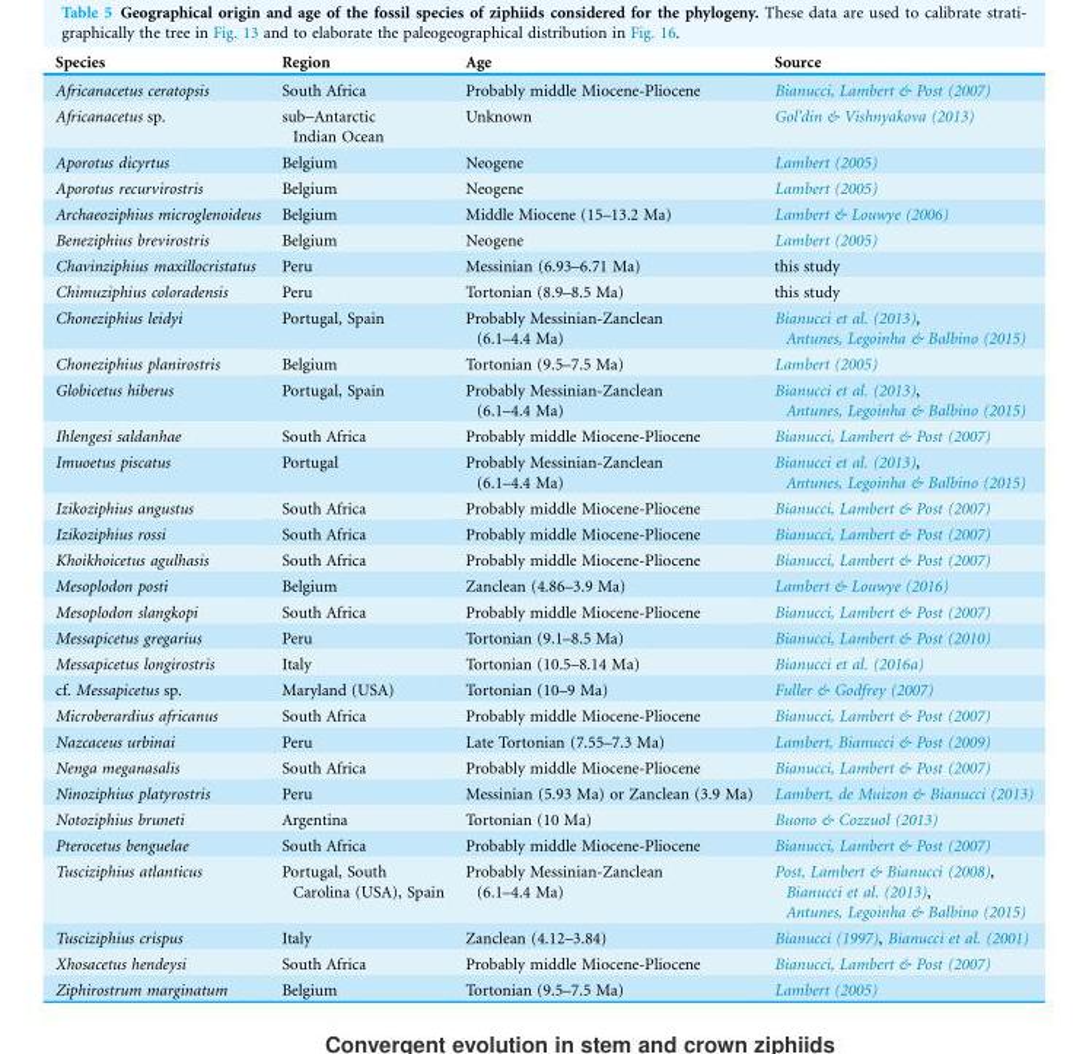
<table><thead><tr><td>Species</td><td>Region</td><td>Age</td><td>Source</td></tr></thead><tbody><tr><td>Africanacetus ceratopsis</td><td>South Africa</td><td>Probably middle Miocene-Pliocene</td><td>Bianucci, Lambert &amp; Post (2007)</td></tr><tr><td>Africanacetus sp.</td><td>sub-Antarctic Indian Ocean</td><td>Unknown</td><td>Gol’din &amp; Vishnyakova (2013)</td></tr><tr><td>Aporotus dicyrtus</td><td>Belgium</td><td>Neogene</td><td>Lambert (2005)</td></tr><tr><td>Aporotus recurvirostris</td><td>Belgium</td><td>Neogene</td><td>Lambert (2005)</td></tr><tr><td>Archaeoziphius microglenoideus</td><td>Belgium</td><td>Middle Miocene (15–13.2 Ma)</td><td>Lambert &amp; Louwye (2006)</td></tr><tr><td>Beneziphius brevirostris</td><td>Belgium</td><td>Neogene</td><td>Lambert (2005)</td></tr><tr><td>Chavinziphius maxillocristatus</td><td>Peru</td><td>Messinian (6.93–6.71 Ma)</td><td>this study</td></tr><tr><td>Chimuziphius coloradensis</td><td>Peru</td><td>Tortonian (8.9–8.5 Ma)</td><td>this study</td></tr><tr><td>Choneziphius leidyi</td><td>Portugal, Spain</td><td>Probably Messinian-Zanclean (6.1–4.4 Ma)</td><td>Bianucci et al. (2013), Antunes, Legoinha &amp; Balbino (2015)</td></tr><tr><td>Choneziphius planirostris</td><td>Belgium</td><td>Tortonian (9.5–7.5 Ma)</td><td>Lambert (2005)</td></tr><tr><td>Globicetus hiberus</td><td>Portugal, Spain</td><td>Probably Messinian-Zanclean (6.1–4.4 Ma)</td><td>Bianucci et al. (2013), Antunes, Legoinha &amp; Balbino (2015)</td></tr><tr><td>Ihlengesi saldanhae</td><td>South Africa</td><td>Probably middle Miocene-Pliocene</td><td>Bianucci, Lambert &amp; Post (2007)</td></tr><tr><td>Imuoetus piscatus</td><td>Portugal</td><td>Probably Messinian-Zanclean (6.1–4.4 Ma)</td><td>Bianucci et al. (2013), Antunes, Legoinha &amp; Balbino (2015)</td></tr><tr><td>Izikoziphius angustus</td><td>South Africa</td><td>Probably middle Miocene-Pliocene</td><td>Bianucci, Lambert &amp; Post (2007)</td></tr><tr><td>Izikoziphius rossi</td><td>South Africa</td><td>Probably middle Miocene-Pliocene</td><td>Bianucci, Lambert &amp; Post (2007)</td></tr><tr><td>Khoikhoicetus agulhasis</td><td>South Africa</td><td>Probably middle Miocene-Pliocene</td><td>Bianucci, Lambert &amp; Post (2007)</td></tr><tr><td>Mesoplodon posti</td><td>Belgium</td><td>Zanclean (4.86–3.9 Ma)</td><td>Lambert &amp; Louwye (2016)</td></tr><tr><td>Mesoplodon slangkopi</td><td>South Africa</td><td>Probably middle Miocene-Pliocene</td><td>Bianucci, Lambert &amp; Post (2007)</td></tr><tr><td>Messapicetus gregarius</td><td>Peru</td><td>Tortonian (9.1–8.5 Ma)</td><td>Bianucci, Lambert &amp; Post (2010)</td></tr><tr><td>Messapicetus longirostris</td><td>Italy</td><td>Tortonian (10.5–8.14 Ma)</td><td>Bianucci et al. (2016a)</td></tr><tr><td>cf. Messapicetus sp.</td><td>Maryland (USA)</td><td>Tortonian (10–9 Ma)</td><td>Fuller &amp; Godfrey (2007)</td></tr><tr><td>Microberardius africanus</td><td>South Africa</td><td>Probably middle Miocene-Pliocene</td><td>Bianucci, Lambert &amp; Post (2007)</td></tr><tr><td>Nazcaceus urbinai</td><td>Peru</td><td>Late Tortonian (7.55–7.3 Ma)</td><td>Lambert, Bianucci &amp; Post (2009)</td></tr><tr><td>Nenga meganasalis</td><td>South Africa</td><td>Probably middle Miocene-Pliocene</td><td>Bianucci, Lambert &amp; Post (2007)</td></tr><tr><td>Ninoziphius platyrostris</td><td>Peru</td><td>Messinian (5.93 Ma) or Zanclean (3.9 Ma)</td><td>Lambert, de Muizon &amp; Bianucci (2013)</td></tr><tr><td>Notoziphius bruneti</td><td>Argentina</td><td>Tortonian (10 Ma)</td><td>Buono &amp; Cozzuol (2013)</td></tr><tr><td>Pterocetus benguelae</td><td>South Africa</td><td>Probably middle Miocene-Pliocene</td><td>Bianucci, Lambert &amp; Post (2007)</td></tr><tr><td>Tusciziphius atlanticus</td><td>Portugal, South Carolina (USA), Spain</td><td>Probably Messinian-Zanclean (6.1–4.4 Ma)</td><td>Post, Lambert &amp; Bianucci (2008), Bianucci et al. (2013), Antunes, Legoinha &amp; Balbino (2015)</td></tr><tr><td>Tusciziphius crispus</td><td>Italy</td><td>Zanclean (4.12–3.84)</td><td>Bianucci (1997), Bianucci et al. (2001)</td></tr><tr><td>Xhosacetus hendeysi</td><td>South Africa</td><td>Probably middle Miocene-Pliocene</td><td>Bianucci, Lambert &amp; Post (2007)</td></tr><tr><td>Ziphirostrum marginatum</td><td>Belgium</td><td>Tortonian (9.5–7.5 Ma)</td><td>Lambert (2005)</td></tr></tbody></table>